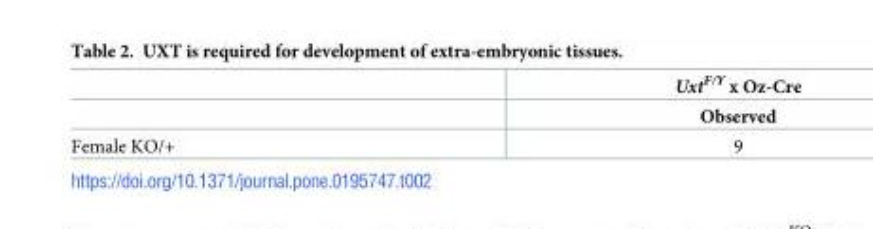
<table><thead><tr><td rowspan="2"></td><td rowspan="2">Uxt<sup>F/Y</sup> x Oz-Cre Observed</td></tr><tr></tr></thead><tbody><tr><td>Female KO/+</td><td>9</td></tr></tbody></table>